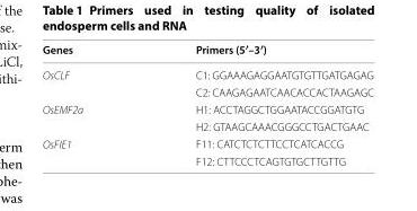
<table><thead><tr><td>Genes</td><td>Primers (5′–3′)</td></tr></thead><tbody><tr><td rowspan="2">OsCLF</td><td>C1: GGAAAGAGGAATGTGTTGATGAGAG</td></tr><tr><td>C2: CAAGAGAATCAACACCACTAAGAGC</td></tr><tr><td rowspan="2">OsEMF2a</td><td>H1: ACCTAGGCTGGAATACCGGATGTG</td></tr><tr><td>H2: GTAAGCAAACGGGCCTGACTGAAC</td></tr><tr><td rowspan="2">OsFIE1</td><td>F11: CATCTCTCTTCCTCATCACCG</td></tr><tr><td>F12: CTTCCCTCAGTGTGCTTGTTG</td></tr></tbody></table>